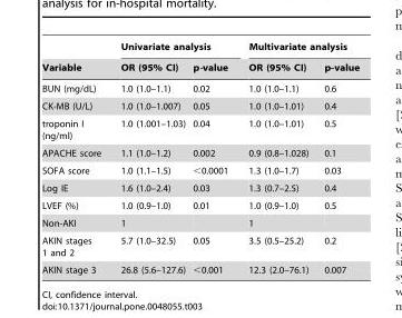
<table><thead><tr><td rowspan="2">Variable</td><td colspan="2">Univariate analysis</td><td colspan="2">Multivariate analysis</td></tr><tr><td>OR (95% CI)</td><td>p-value</td><td>OR (95% CI)</td><td>p-value</td></tr></thead><tbody><tr><td>BUN (mg/dL)</td><td>1.0 (1.0–1.1)</td><td>0.02</td><td>1.0 (1.0–1.1)</td><td>0.6</td></tr><tr><td>CK-MB (U/L)</td><td>1.0 (1.0–1.007)</td><td>0.05</td><td>1.0 (1.0–1.01)</td><td>0.4</td></tr><tr><td>troponin I (ng/ml)</td><td>1.0 (1.001–1.03)</td><td>0.04</td><td>1.0 (1.0–1.01)</td><td>0.5</td></tr><tr><td>APACHE score</td><td>1.1 (1.0–1.2)</td><td>0.002</td><td>0.9 (0.8–1.028)</td><td>0.1</td></tr><tr><td>SOFA score</td><td>1.0 (1.1–1.5)</td><td>&lt;0.0001</td><td>1.3 (1.0–1.7)</td><td>0.03</td></tr><tr><td>Log IE</td><td>1.6 (1.0–2.4)</td><td>0.03</td><td>1.3 (0.7–2.5)</td><td>0.4</td></tr><tr><td>LVEF (%)</td><td>1.0 (0.9–1.0)</td><td>0.01</td><td>1.0 (0.9–1.0)</td><td>0.5</td></tr><tr><td>Non-AKI</td><td>1</td><td></td><td>1</td><td></td></tr><tr><td>AKIN stages 1 and 2</td><td>5.7 (1.0–32.5)</td><td>0.05</td><td>3.5 (0.5–25.2)</td><td>0.2</td></tr><tr><td>AKIN stage 3</td><td>26.8 (5.6–127.6)</td><td>&lt;0.001</td><td>12.3 (2.0–76.1)</td><td>0.007</td></tr></tbody></table>